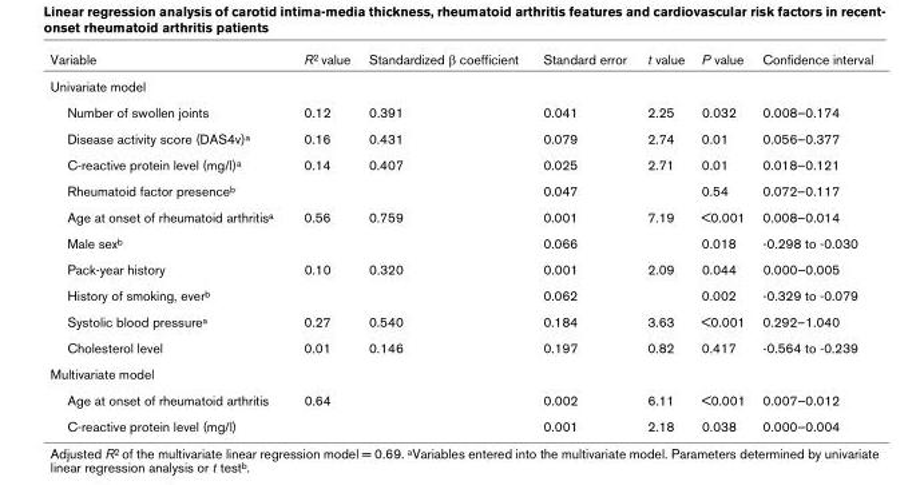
<table><thead><tr><td>Variable</td><td>R<sup>2</sup> value</td><td>Standardized β coefficient</td><td>Standard error</td><td>t value</td><td>P value</td><td>Confidence interval</td></tr></thead><tbody><tr><td colspan="7">Univariate model</td></tr><tr><td>Number of swollen joints</td><td>0.12</td><td>0.391</td><td>0.041</td><td>2.25</td><td>0.032</td><td>0.008–0.174</td></tr><tr><td>Disease activity score (DAS4v)<sup>a</sup></td><td>0.16</td><td>0.431</td><td>0.079</td><td>2.74</td><td>0.01</td><td>0.056–0.377</td></tr><tr><td>C-reactive protein level (mg/l)<sup>a</sup></td><td>0.14</td><td>0.407</td><td>0.025</td><td>2.71</td><td>0.01</td><td>0.018–0.121</td></tr><tr><td>Rheumatoid factor presence<sup>b</sup></td><td></td><td></td><td>0.047</td><td></td><td>0.54</td><td>0.072–0.117</td></tr><tr><td>Age at onset of rheumatoid arthritis<sup>a</sup></td><td>0.56</td><td>0.759</td><td>0.001</td><td>7.19</td><td>&lt;0.001</td><td>0.008–0.014</td></tr><tr><td>Male sex<sup>b</sup></td><td></td><td></td><td>0.066</td><td></td><td>0.018</td><td>-0.298 to -0.030</td></tr><tr><td>Pack-year history</td><td>0.10</td><td>0.320</td><td>0.001</td><td>2.09</td><td>0.044</td><td>0.000–0.005</td></tr><tr><td>History of smoking, ever<sup>b</sup></td><td></td><td></td><td>0.062</td><td></td><td>0.002</td><td>-0.329 to -0.079</td></tr><tr><td>Systolic blood pressure<sup>a</sup></td><td>0.27</td><td>0.540</td><td>0.184</td><td>3.63</td><td>&lt;0.001</td><td>0.292–1.040</td></tr><tr><td>Cholesterol level</td><td>0.01</td><td>0.146</td><td>0.197</td><td>0.82</td><td>0.417</td><td>-0.564 to -0.239</td></tr><tr><td colspan="7">Multivariate model</td></tr><tr><td>Age at onset of rheumatoid arthritis</td><td>0.64</td><td></td><td>0.002</td><td>6.11</td><td>&lt;0.001</td><td>0.007–0.012</td></tr><tr><td>C-reactive protein level (mg/l)</td><td></td><td></td><td>0.001</td><td>2.18</td><td>0.038</td><td>0.000–0.004</td></tr></tbody></table>